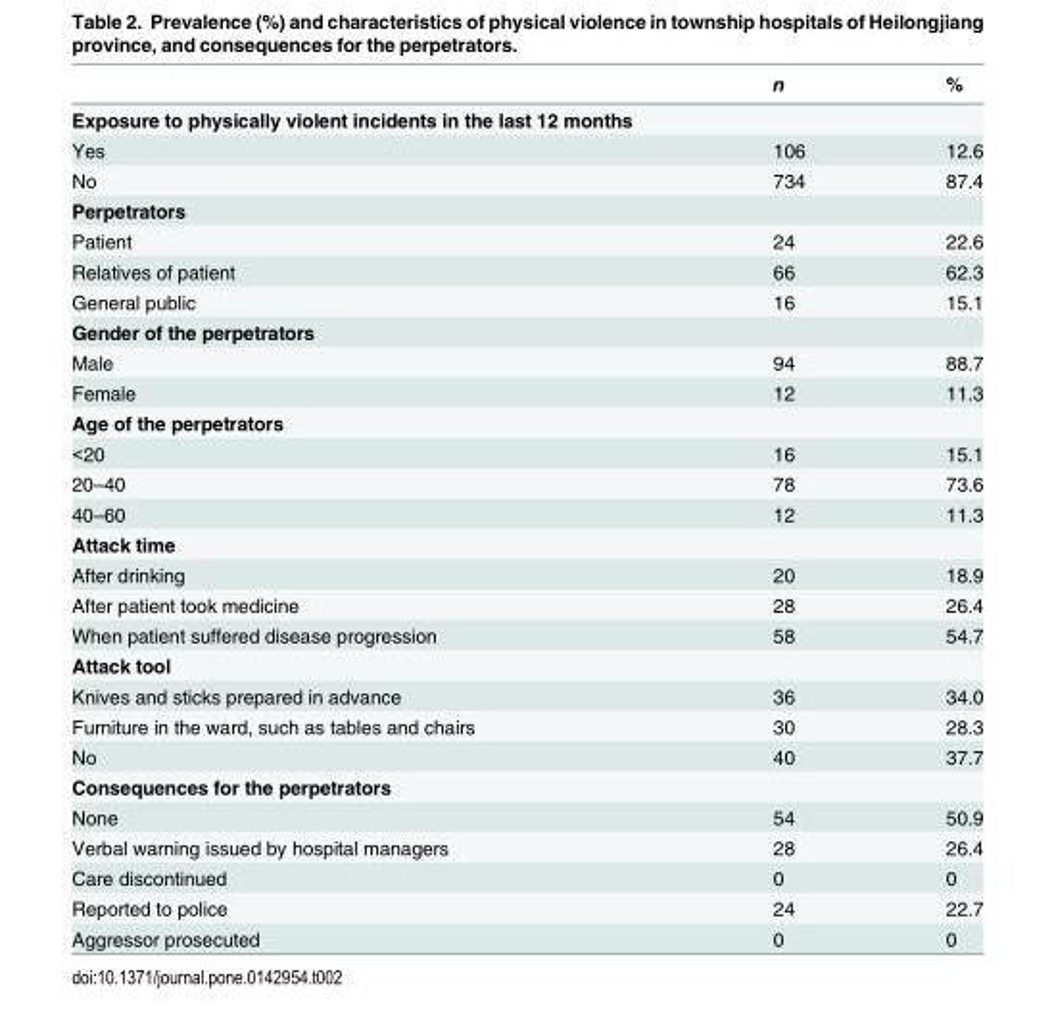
<table><thead><tr><td></td><td>n</td><td>%</td></tr></thead><tbody><tr><td colspan="3">Exposure to physically violent incidents in the last 12 months</td></tr><tr><td>Yes</td><td>106</td><td>12.6</td></tr><tr><td>No</td><td>734</td><td>87.4</td></tr><tr><td colspan="3">Perpetrators</td></tr><tr><td>Patient</td><td>24</td><td>22.6</td></tr><tr><td>Relatives of patient</td><td>66</td><td>62.3</td></tr><tr><td>General public</td><td>16</td><td>15.1</td></tr><tr><td colspan="3">Gender of the perpetrators</td></tr><tr><td>Male</td><td>94</td><td>88.7</td></tr><tr><td>Female</td><td>12</td><td>11.3</td></tr><tr><td colspan="3">Age of the perpetrators</td></tr><tr><td>&lt;20</td><td>16</td><td>15.1</td></tr><tr><td>20–40</td><td>78</td><td>73.6</td></tr><tr><td>40–60</td><td>12</td><td>11.3</td></tr><tr><td colspan="3">Attack time</td></tr><tr><td>After drinking</td><td>20</td><td>18.9</td></tr><tr><td>After patient took medicine</td><td>28</td><td>26.4</td></tr><tr><td>When patient suffered disease progression</td><td>58</td><td>54.7</td></tr><tr><td colspan="3">Attack tool</td></tr><tr><td>Knives and sticks prepared in advance</td><td>36</td><td>34.0</td></tr><tr><td>Furniture in the ward, such as tables and chairs</td><td>30</td><td>28.3</td></tr><tr><td>No</td><td>40</td><td>37.7</td></tr><tr><td colspan="3">Consequences for the perpetrators</td></tr><tr><td>None</td><td>54</td><td>50.9</td></tr><tr><td>Verbal warning issued by hospital managers</td><td>28</td><td>26.4</td></tr><tr><td>Care discontinued</td><td>0</td><td>0</td></tr><tr><td>Reported to police</td><td>24</td><td>22.7</td></tr><tr><td>Aggressor prosecuted</td><td>0</td><td>0</td></tr></tbody></table>